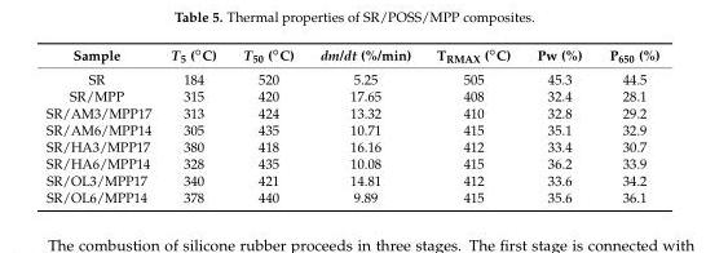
<table><thead><tr><td>Sample</td><td>T5 (◦C)</td><td>T50 (◦C)</td><td>dm/dt (%/min)</td><td>TRMAX (◦C)</td><td>Pw (%)</td><td>P650 (%)</td></tr></thead><tbody><tr><td>SR</td><td>184</td><td>520</td><td>5.25</td><td>505</td><td>45.3</td><td>44.5</td></tr><tr><td>SR/MPP</td><td>315</td><td>420</td><td>17.65</td><td>408</td><td>32.4</td><td>28.1</td></tr><tr><td>SR/AM3/MPP17</td><td>313</td><td>424</td><td>13.32</td><td>410</td><td>32.8</td><td>29.2</td></tr><tr><td>SR/AM6/MPP14</td><td>305</td><td>435</td><td>10.71</td><td>415</td><td>35.1</td><td>32.9</td></tr><tr><td>SR/HA3/MPP17</td><td>380</td><td>418</td><td>16.16</td><td>412</td><td>33.4</td><td>30.7</td></tr><tr><td>SR/HA6/MPP14</td><td>328</td><td>435</td><td>10.08</td><td>415</td><td>36.2</td><td>33.9</td></tr><tr><td>SR/OL3/MPP17</td><td>340</td><td>421</td><td>14.81</td><td>412</td><td>33.6</td><td>34.2</td></tr><tr><td>SR/OL6/MPP14</td><td>378</td><td>440</td><td>9.89</td><td>415</td><td>35.6</td><td>36.1</td></tr></tbody></table>